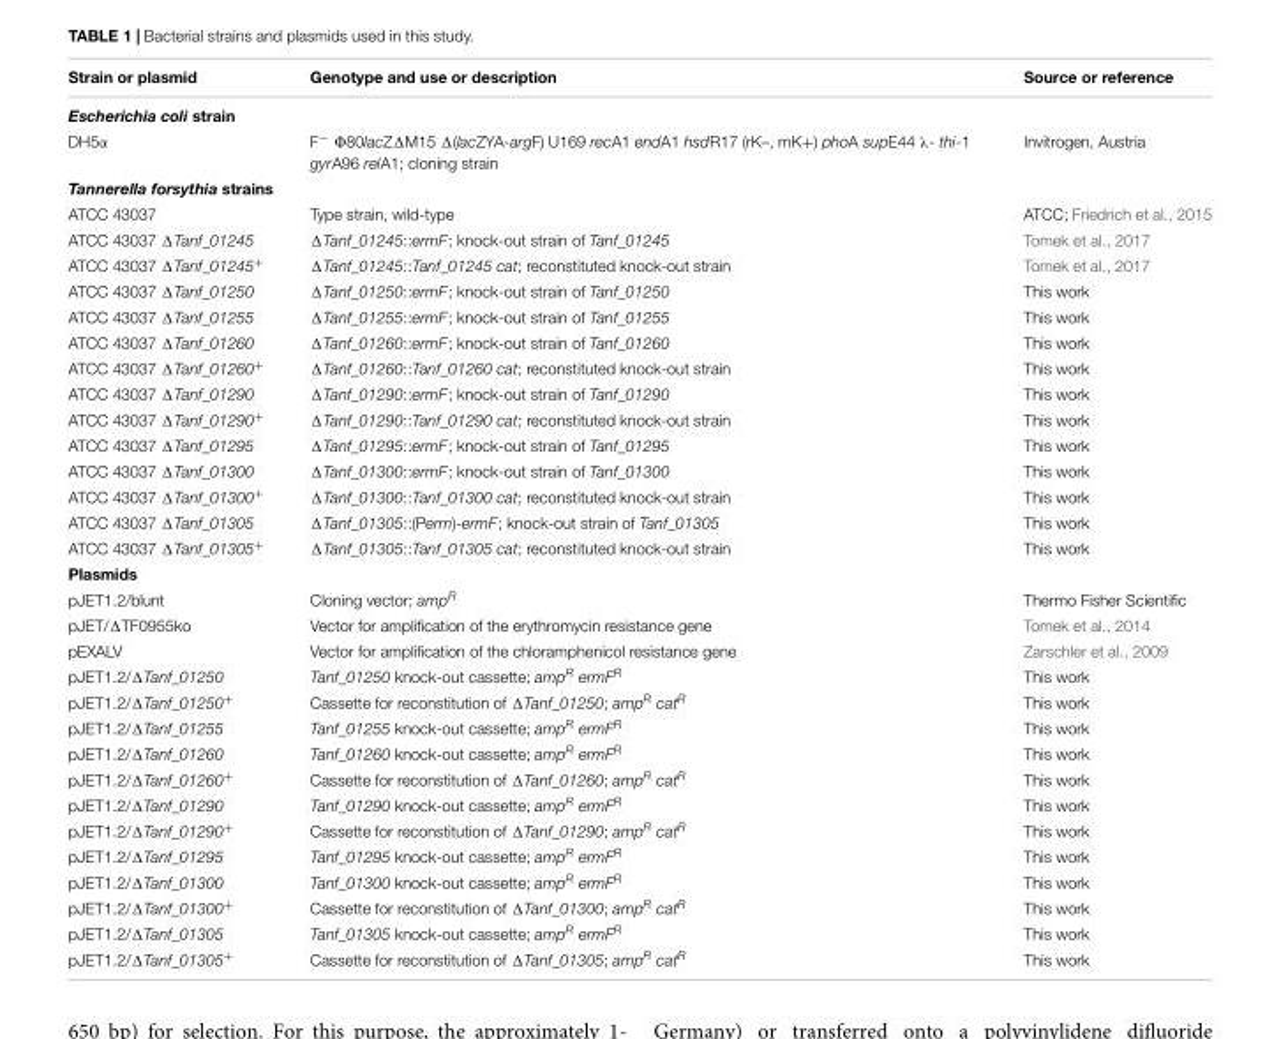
<table><thead><tr><td>Strain or plasmid</td><td>Genotype and use or description</td><td>Source or reference</td></tr></thead><tbody><tr><td colspan="3">Escherichia coli strain</td></tr><tr><td>DH5α</td><td>F<sup>−</sup> Φ80lacZΔM15 Δ(lacZYA-argF) U169 recA1 endA1 hsdR17 (rK–, mK+) phoA supE44 λ- thi-1 gyrA96 relA1; cloning strain</td><td>Invitrogen, Austria</td></tr><tr><td colspan="3">Tannerella forsythia strains</td></tr><tr><td>ATCC 43037</td><td>Type strain, wild-type</td><td>ATCC; Friedrich et al., 2015</td></tr><tr><td>ATCC 43037 ΔTanf_01245</td><td>ΔTanf_01245::ermF; knock-out strain of Tanf_01245</td><td>Tomek et al., 2017</td></tr><tr><td>ATCC 43037 ΔTanf_01245<sup>+</sup></td><td>ΔTanf_01245::Tanf_01245 cat; reconstituted knock-out strain</td><td>Tomek et al., 2017</td></tr><tr><td>ATCC 43037 ΔTanf_01250</td><td>ΔTanf_01250::ermF; knock-out strain of Tanf_01250</td><td>This work</td></tr><tr><td>ATCC 43037 ΔTanf_01255</td><td>ΔTanf_01255::ermF; knock-out strain of Tanf_01255</td><td>This work</td></tr><tr><td>ATCC 43037 ΔTanf_01260</td><td>ΔTanf_01260::ermF; knock-out strain of Tanf_01260</td><td>This work</td></tr><tr><td>ATCC 43037 ΔTanf_01260<sup>+</sup></td><td>ΔTanf_01260::Tanf_01260 cat; reconstituted knock-out strain</td><td>This work</td></tr><tr><td>ATCC 43037 ΔTanf_01290</td><td>ΔTanf_01290::ermF; knock-out strain of Tanf_01290</td><td>This work</td></tr><tr><td>ATCC 43037 ΔTanf_01290<sup>+</sup></td><td>ΔTanf_01290::Tanf_01290 cat; reconstituted knock-out strain</td><td>This work</td></tr><tr><td>ATCC 43037 ΔTanf_01295</td><td>ΔTanf_01295::ermF; knock-out strain of Tanf_01295</td><td>This work</td></tr><tr><td>ATCC 43037 ΔTanf_01300</td><td>ΔTanf_01300::ermF; knock-out strain of Tanf_01300</td><td>This work</td></tr><tr><td>ATCC 43037 ΔTanf_01300<sup>+</sup></td><td>ΔTanf_01300::Tanf_01300 cat; reconstituted knock-out strain</td><td>This work</td></tr><tr><td>ATCC 43037 ΔTanf_01305</td><td>ΔTanf_01305::(Perm)-ermF; knock-out strain of Tanf_01305</td><td>This work</td></tr><tr><td>ATCC 43037 ΔTanf_01305<sup>+</sup></td><td>ΔTanf_01305::Tanf_01305 cat; reconstituted knock-out strain</td><td>This work</td></tr><tr><td colspan="3">Plasmids</td></tr><tr><td>pJET1.2/blunt</td><td>Cloning vector; amp<sup>R</sup></td><td>Thermo Fisher Scientific</td></tr><tr><td>pJET/ΔTF0955ko</td><td>Vector for amplification of the erythromycin resistance gene</td><td>Tomek et al., 2014</td></tr><tr><td>pEXALV</td><td>Vector for amplification of the chloramphenicol resistance gene</td><td>Zarschler et al., 2009</td></tr><tr><td>pJET1.2/ΔTanf_01250</td><td>Tanf_01250 knock-out cassette; amp<sup>R</sup> ermF<sup>R</sup></td><td>This work</td></tr><tr><td>pJET1.2/ΔTanf_01250<sup>+</sup></td><td>Cassette for reconstitution of ΔTanf_01250; amp<sup>R</sup> cat<sup>R</sup></td><td>This work</td></tr><tr><td>pJET1.2/ΔTanf_01255</td><td>Tanf_01255 knock-out cassette; amp<sup>R</sup> ermF<sup>R</sup></td><td>This work</td></tr><tr><td>pJET1.2/ΔTanf_01260</td><td>Tanf_01260 knock-out cassette; amp<sup>R</sup> ermF<sup>R</sup></td><td>This work</td></tr><tr><td>pJET1.2/ΔTanf_01260<sup>+</sup></td><td>Cassette for reconstitution of ΔTanf_01260; amp<sup>R</sup> cat<sup>R</sup></td><td>This work</td></tr><tr><td>pJET1.2/ΔTanf_01290</td><td>Tanf_01290 knock-out cassette; amp<sup>R</sup> ermF<sup>R</sup></td><td>This work</td></tr><tr><td>pJET1.2/ΔTanf_01290<sup>+</sup></td><td>Cassette for reconstitution of ΔTanf_01290; amp<sup>R</sup> cat<sup>R</sup></td><td>This work</td></tr><tr><td>pJET1.2/ΔTanf_01295</td><td>Tanf_01295 knock-out cassette; amp<sup>R</sup> ermF<sup>R</sup></td><td>This work</td></tr><tr><td>pJET1.2/ΔTanf_01300</td><td>Tanf_01300 knock-out cassette; amp<sup>R</sup> ermF<sup>R</sup></td><td>This work</td></tr><tr><td>pJET1.2/ΔTanf_01300<sup>+</sup></td><td>Cassette for reconstitution of ΔTanf_01300; amp<sup>R</sup> cat<sup>R</sup></td><td>This work</td></tr><tr><td>pJET1.2/ΔTanf_01305</td><td>Tanf_01305 knock-out cassette; amp<sup>R</sup> ermF<sup>R</sup></td><td>This work</td></tr><tr><td>pJET1.2/ΔTanf_01305<sup>+</sup></td><td>Cassette for reconstitution of ΔTanf_01305; amp<sup>R</sup> cat<sup>R</sup></td><td>This work</td></tr></tbody></table>